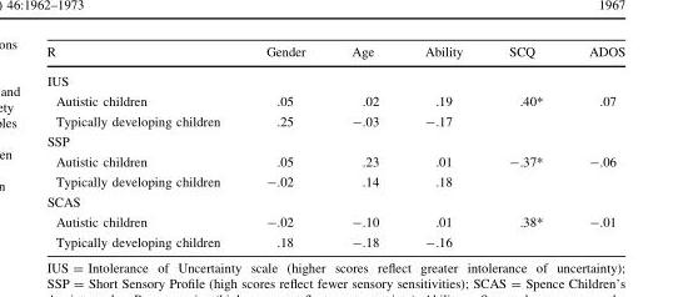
<table><thead><tr><td>R</td><td>Gender</td><td>Age</td><td>Ability</td><td>SCQ</td><td>ADOS</td></tr></thead><tbody><tr><td colspan="6">IUS</td></tr><tr><td>Autistic children</td><td>.05</td><td>.02</td><td>.19</td><td>.40*</td><td>.07</td></tr><tr><td>Typically developing children</td><td>.25</td><td>-.03</td><td>-.17</td><td></td><td></td></tr><tr><td colspan="6">SSP</td></tr><tr><td>Autistic children</td><td>.05</td><td>.23</td><td>.01</td><td>-.37*</td><td>-.06</td></tr><tr><td>Typically developing children</td><td>-.02</td><td>.14</td><td>.18</td><td></td><td></td></tr><tr><td colspan="6">SCAS</td></tr><tr><td>Autistic children</td><td>-.02</td><td>-.10</td><td>.01</td><td>.38*</td><td>-.01</td></tr><tr><td>Typically developing children</td><td>.18</td><td>-.18</td><td>-.16</td><td></td><td></td></tr></tbody></table>